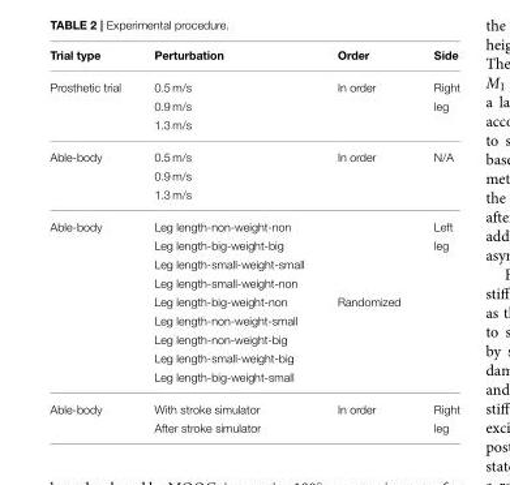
<table><thead><tr><td>Trial type</td><td>Perturbation</td><td>Order</td><td>Side</td></tr></thead><tbody><tr><td rowspan="3">Prosthetic trial</td><td>0.5 m/s</td><td>In order</td><td>Right</td></tr><tr><td>0.9 m/s</td><td></td><td>leg</td></tr><tr><td>1.3 m/s</td><td></td><td></td></tr><tr><td rowspan="3">Able-body</td><td>0.5 m/s</td><td>In order</td><td>N/A</td></tr><tr><td>0.9 m/s</td><td></td><td></td></tr><tr><td>1.3 m/s</td><td></td><td></td></tr><tr><td rowspan="9">Able-body</td><td>Leg length-non-weight-non</td><td></td><td>Left</td></tr><tr><td>Leg length-big-weight-big</td><td></td><td>leg</td></tr><tr><td>Leg length-small-weight-small</td><td></td><td></td></tr><tr><td>Leg length-small-weight-non</td><td></td><td></td></tr><tr><td>Leg length-big-weight-non</td><td>Randomized</td><td></td></tr><tr><td>Leg length-non-weight-small</td><td></td><td></td></tr><tr><td>Leg length-non-weight-big</td><td></td><td></td></tr><tr><td>Leg length-small-weight-big</td><td></td><td></td></tr><tr><td>Leg length-big-weight-small</td><td></td><td></td></tr><tr><td rowspan="2">Able-body</td><td>With stroke simulator</td><td>In order</td><td>Right</td></tr><tr><td>After stroke simulator</td><td></td><td>leg</td></tr></tbody></table>